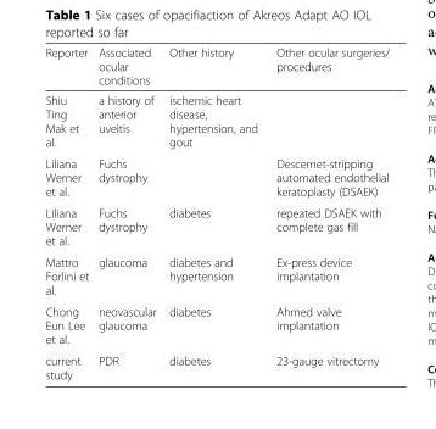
<table><thead><tr><td>Reporter</td><td>Associated ocular conditions</td><td>Other history</td><td>Other ocular surgeries/ procedures</td></tr></thead><tbody><tr><td>Shiu Ting Mak et al.</td><td>a history of anterior uveitis</td><td>ischemic heart disease, hypertension, and gout</td><td></td></tr><tr><td>Liliana Werner et al.</td><td>Fuchs dystrophy</td><td></td><td>Descemet-stripping automated endothelial keratoplasty (DSAEK)</td></tr><tr><td>Liliana Werner et al.</td><td>Fuchs dystrophy</td><td>diabetes</td><td>repeated DSAEK with complete gas fill</td></tr><tr><td>Mattro Forlini et al.</td><td>glaucoma</td><td>diabetes and hypertension</td><td>Ex-press device implantation</td></tr><tr><td>Chong Eun Lee et al.</td><td>neovascular glaucoma</td><td>diabetes</td><td>Ahmed valve implantation</td></tr><tr><td>current study</td><td>PDR</td><td>diabetes</td><td>23-gauge vitrectomy</td></tr></tbody></table>